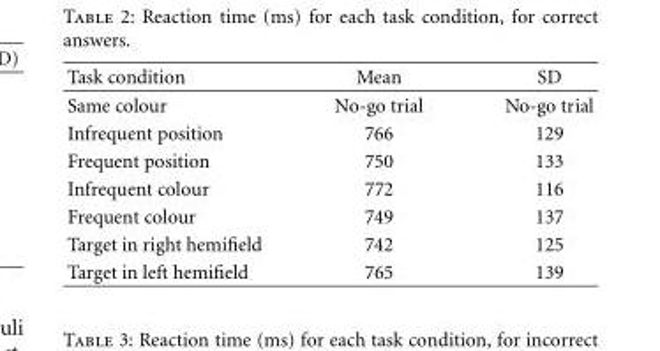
<table><thead><tr><td>Task condition</td><td>Mean</td><td>SD</td></tr></thead><tbody><tr><td>Same colour</td><td>No-go trial</td><td>No-go trial</td></tr><tr><td>Infrequent position</td><td>766</td><td>129</td></tr><tr><td>Frequent position</td><td>750</td><td>133</td></tr><tr><td>Infrequent colour</td><td>772</td><td>116</td></tr><tr><td>Frequent colour</td><td>749</td><td>137</td></tr><tr><td>Target in right hemifield</td><td>742</td><td>125</td></tr><tr><td>Target in left hemifield</td><td>765</td><td>139</td></tr></tbody></table>